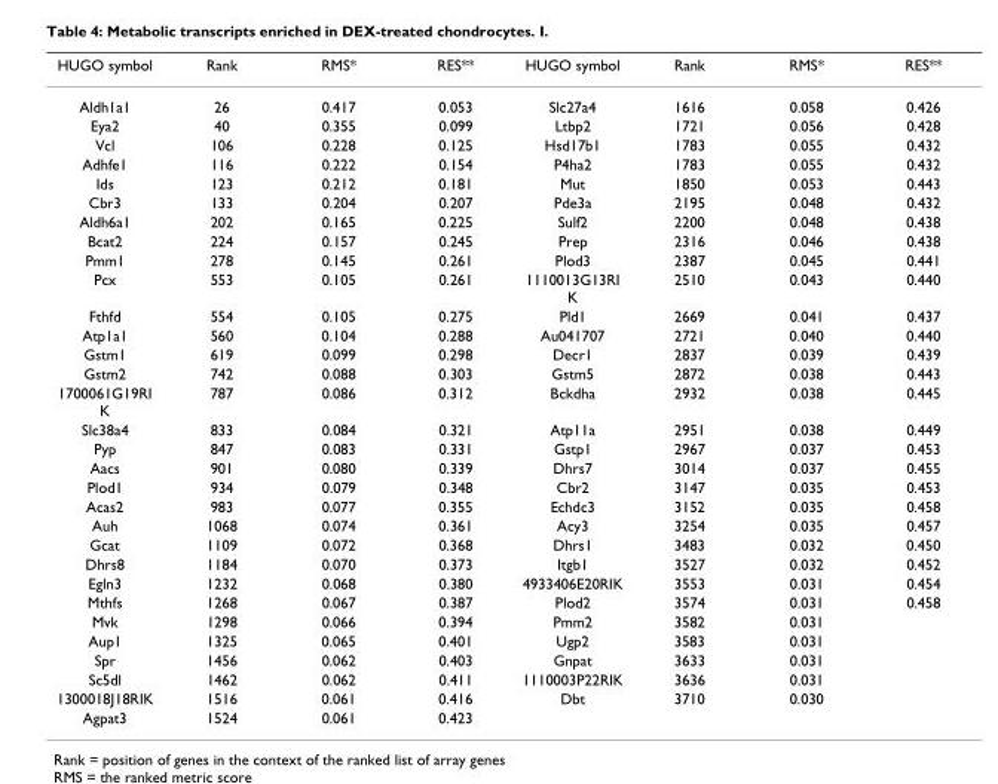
<table><thead><tr><td>HUGO symbol</td><td>Rank</td><td>RMS*</td><td>RES**</td><td>HUGO symbol</td><td>Rank</td><td>RMS*</td><td>RES**</td></tr></thead><tbody><tr><td>Aldh1a1</td><td>26</td><td>0.417</td><td>0.053</td><td>Slc27a4</td><td>1616</td><td>0.058</td><td>0.426</td></tr><tr><td>Eya2</td><td>40</td><td>0.355</td><td>0.099</td><td>Ltbp2</td><td>1721</td><td>0.056</td><td>0.428</td></tr><tr><td>Vcl</td><td>106</td><td>0.228</td><td>0.125</td><td>Hsd17b1</td><td>1783</td><td>0.055</td><td>0.432</td></tr><tr><td>Adhfe1</td><td>116</td><td>0.222</td><td>0.154</td><td>P4ha2</td><td>1783</td><td>0.055</td><td>0.432</td></tr><tr><td>Ids</td><td>123</td><td>0.212</td><td>0.181</td><td>Mut</td><td>1850</td><td>0.053</td><td>0.443</td></tr><tr><td>Cbr3</td><td>133</td><td>0.204</td><td>0.207</td><td>Pde3a</td><td>2195</td><td>0.048</td><td>0.432</td></tr><tr><td>Aldh6a1</td><td>202</td><td>0.165</td><td>0.225</td><td>Sulf2</td><td>2200</td><td>0.048</td><td>0.438</td></tr><tr><td>Bcat2</td><td>224</td><td>0.157</td><td>0.245</td><td>Prep</td><td>2316</td><td>0.046</td><td>0.438</td></tr><tr><td>Pmm1</td><td>278</td><td>0.145</td><td>0.261</td><td>Plod3</td><td>2387</td><td>0.045</td><td>0.441</td></tr><tr><td>Pcx</td><td>553</td><td>0.105</td><td>0.261</td><td>1110013G13RI K</td><td>2510</td><td>0.043</td><td>0.440</td></tr><tr><td>Fthfd</td><td>554</td><td>0.105</td><td>0.275</td><td>Pld1</td><td>2669</td><td>0.041</td><td>0.437</td></tr><tr><td>Atp1a1</td><td>560</td><td>0.104</td><td>0.288</td><td>Au041707</td><td>2721</td><td>0.040</td><td>0.440</td></tr><tr><td>Gstm1</td><td>619</td><td>0.099</td><td>0.298</td><td>Decr1</td><td>2837</td><td>0.039</td><td>0.439</td></tr><tr><td>Gstm2</td><td>742</td><td>0.088</td><td>0.303</td><td>Gstm5</td><td>2872</td><td>0.038</td><td>0.443</td></tr><tr><td>1700061G19RI K</td><td>787</td><td>0.086</td><td>0.312</td><td>Bckdha</td><td>2932</td><td>0.038</td><td>0.445</td></tr><tr><td>Slc38a4</td><td>833</td><td>0.084</td><td>0.321</td><td>Atp11a</td><td>2951</td><td>0.038</td><td>0.449</td></tr><tr><td>Pyp</td><td>847</td><td>0.083</td><td>0.331</td><td>Gstp1</td><td>2967</td><td>0.037</td><td>0.453</td></tr><tr><td>Aacs</td><td>901</td><td>0.080</td><td>0.339</td><td>Dhrs7</td><td>3014</td><td>0.037</td><td>0.455</td></tr><tr><td>Plod1</td><td>934</td><td>0.079</td><td>0.348</td><td>Cbr2</td><td>3147</td><td>0.035</td><td>0.453</td></tr><tr><td>Acas2</td><td>983</td><td>0.077</td><td>0.355</td><td>Echdc3</td><td>3152</td><td>0.035</td><td>0.458</td></tr><tr><td>Auh</td><td>1068</td><td>0.074</td><td>0.361</td><td>Acy3</td><td>3254</td><td>0.035</td><td>0.457</td></tr><tr><td>Gcat</td><td>1109</td><td>0.072</td><td>0.368</td><td>Dhrs1</td><td>3483</td><td>0.032</td><td>0.450</td></tr><tr><td>Dhrs8</td><td>1184</td><td>0.070</td><td>0.373</td><td>Itgb1</td><td>3527</td><td>0.032</td><td>0.452</td></tr><tr><td>Egln3</td><td>1232</td><td>0.068</td><td>0.380</td><td>4933406E20RIK</td><td>3553</td><td>0.031</td><td>0.454</td></tr><tr><td>Mthfs</td><td>1268</td><td>0.067</td><td>0.387</td><td>Plod2</td><td>3574</td><td>0.031</td><td>0.458</td></tr><tr><td>Mvk</td><td>1298</td><td>0.066</td><td>0.394</td><td>Pmm2</td><td>3582</td><td>0.031</td><td></td></tr><tr><td>Aup1</td><td>1325</td><td>0.065</td><td>0.401</td><td>Ugp2</td><td>3583</td><td>0.031</td><td></td></tr><tr><td>Spr</td><td>1456</td><td>0.062</td><td>0.403</td><td>Gnpat</td><td>3633</td><td>0.031</td><td></td></tr><tr><td>Sc5dl</td><td>1462</td><td>0.062</td><td>0.411</td><td>1110003P22RIK</td><td>3636</td><td>0.031</td><td></td></tr><tr><td>1300018J18RIK</td><td>1516</td><td>0.061</td><td>0.416</td><td>Dbt</td><td>3710</td><td>0.030</td><td></td></tr><tr><td>Agpat3</td><td>1524</td><td>0.061</td><td>0.423</td><td></td><td></td><td></td><td></td></tr></tbody></table>